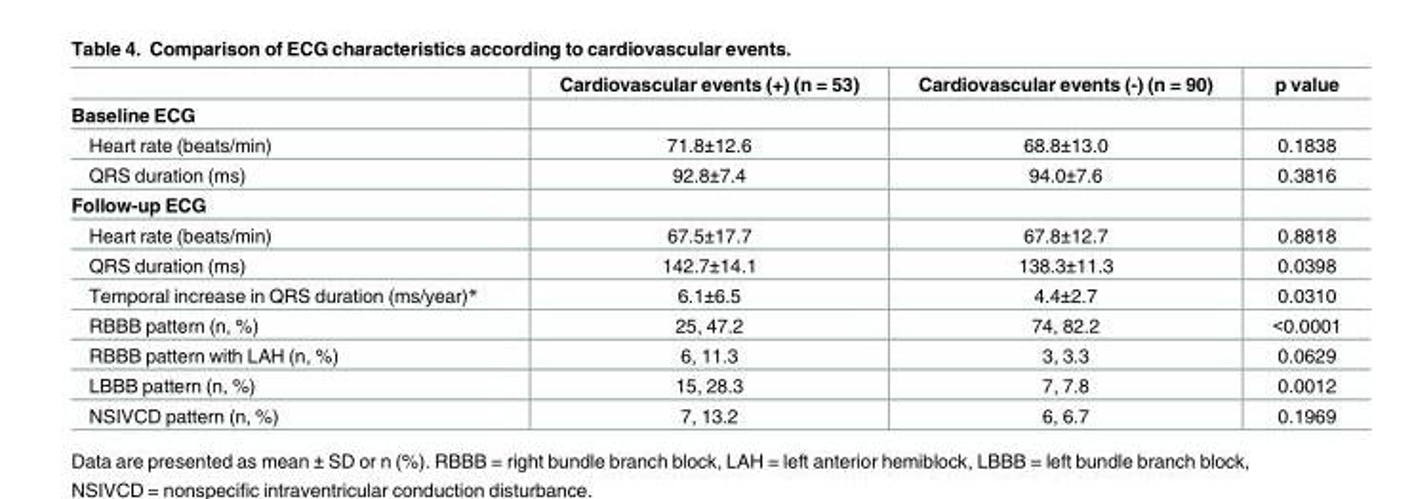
<table><thead><tr><td></td><td>Cardiovascular events (+) (n = 53)</td><td>Cardiovascular events (-) (n = 90)</td><td>p value</td></tr></thead><tbody><tr><td colspan="4">Baseline ECG</td></tr><tr><td>Heart rate (beats/min)</td><td>71.8±12.6</td><td>68.8±13.0</td><td>0.1838</td></tr><tr><td>QRS duration (ms)</td><td>92.8±7.4</td><td>94.0±7.6</td><td>0.3816</td></tr><tr><td colspan="4">Follow-up ECG</td></tr><tr><td>Heart rate (beats/min)</td><td>67.5±17.7</td><td>67.8±12.7</td><td>0.8818</td></tr><tr><td>QRS duration (ms)</td><td>142.7±14.1</td><td>138.3±11.3</td><td>0.0398</td></tr><tr><td>Temporal increase in QRS duration (ms/year)*</td><td>6.1±6.5</td><td>4.4±2.7</td><td>0.0310</td></tr><tr><td>RBBB pattern (n, %)</td><td>25, 47.2</td><td>74, 82.2</td><td>&lt;0.0001</td></tr><tr><td>RBBB pattern with LAH (n, %)</td><td>6, 11.3</td><td>3, 3.3</td><td>0.0629</td></tr><tr><td>LBBB pattern (n, %)</td><td>15, 28.3</td><td>7, 7.8</td><td>0.0012</td></tr><tr><td>NSIVCD pattern (n, %)</td><td>7, 13.2</td><td>6, 6.7</td><td>0.1969</td></tr></tbody></table>